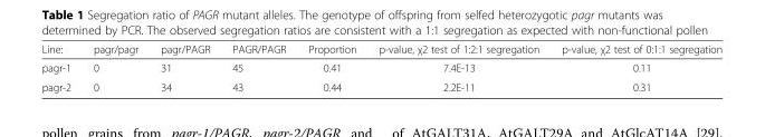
<table><thead><tr><td>Line:</td><td>pagr/pagr</td><td>pagr/PAGR</td><td>PAGR/PAGR</td><td>Proportion</td><td>p-value, χ2 test of 1:2:1 segregation</td><td>p-value, χ2 test of 0:1:1 segregation</td></tr></thead><tbody><tr><td>pagr-1</td><td>0</td><td>31</td><td>45</td><td>0.41</td><td>7.4E-13</td><td>0.11</td></tr><tr><td>pagr-2</td><td>0</td><td>34</td><td>43</td><td>0.44</td><td>2.2E-11</td><td>0.31</td></tr></tbody></table>